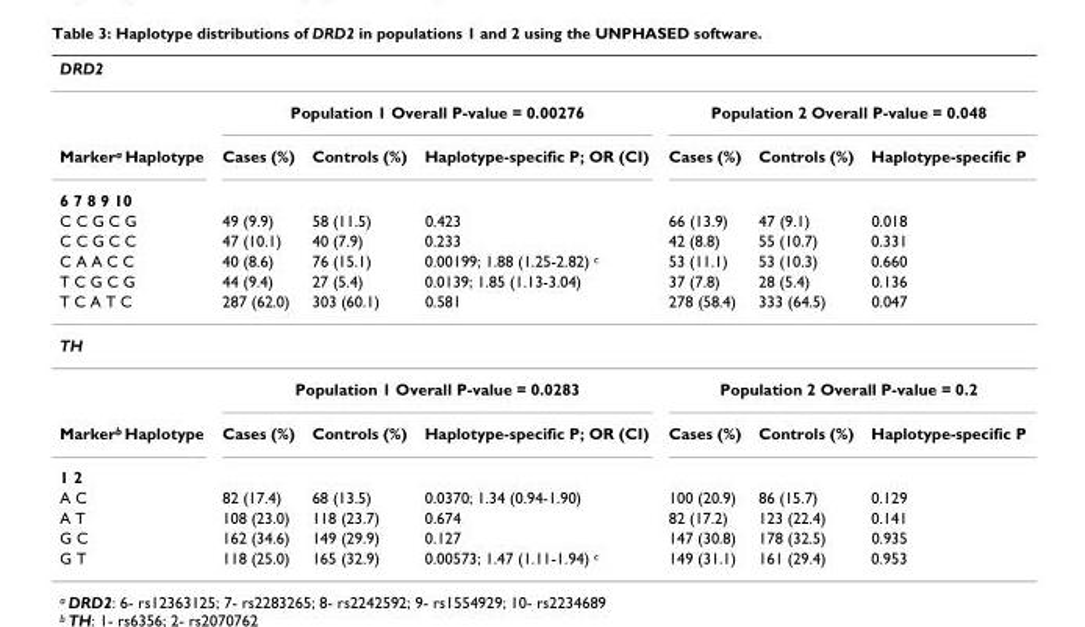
<table><thead><tr><td>DRD2</td><td></td><td></td><td></td><td></td><td></td><td></td></tr></thead><tbody><tr><td></td><td colspan="3">Population 1 Overall P-value = 0.00276</td><td colspan="3">Population 2 Overall P-value = 0.048</td></tr><tr><td>Marker<sup>a</sup> Haplotype</td><td>Cases (%)</td><td>Controls (%)</td><td>Haplotype-specific P; OR (CI)</td><td>Cases (%)</td><td>Controls (%)</td><td>Haplotype-specific P</td></tr><tr><td colspan="7">6 7 8 9 10</td></tr><tr><td>C C G C G</td><td>49 (9.9)</td><td>58 (11.5)</td><td>0.423</td><td>66 (13.9)</td><td>47 (9.1)</td><td>0.018</td></tr><tr><td>C C G C C</td><td>47 (10.1)</td><td>40 (7.9)</td><td>0.233</td><td>42 (8.8)</td><td>55 (10.7)</td><td>0.331</td></tr><tr><td>C A A C C</td><td>40 (8.6)</td><td>76 (15.1)</td><td>0.00199; 1.88 (1.25-2.82) <sup>c</sup></td><td>53 (11.1)</td><td>53 (10.3)</td><td>0.660</td></tr><tr><td>T C G C G</td><td>44 (9.4)</td><td>27 (5.4)</td><td>0.0139; 1.85 (1.13-3.04)</td><td>37 (7.8)</td><td>28 (5.4)</td><td>0.136</td></tr><tr><td>T C A T C</td><td>287 (62.0)</td><td>303 (60.1)</td><td>0.581</td><td>278 (58.4)</td><td>333 (64.5)</td><td>0.047</td></tr><tr><td colspan="7">TH</td></tr><tr><td></td><td colspan="3">Population 1 Overall P-value = 0.0283</td><td colspan="3">Population 2 Overall P-value = 0.2</td></tr><tr><td>Marker<sup>b</sup> Haplotype</td><td>Cases (%)</td><td>Controls (%)</td><td>Haplotype-specific P; OR (CI)</td><td>Cases (%)</td><td>Controls (%)</td><td>Haplotype-specific P</td></tr><tr><td colspan="7">1 2</td></tr><tr><td>A C</td><td>82 (17.4)</td><td>68 (13.5)</td><td>0.0370; 1.34 (0.94-1.90)</td><td>100 (20.9)</td><td>86 (15.7)</td><td>0.129</td></tr><tr><td>A T</td><td>108 (23.0)</td><td>118 (23.7)</td><td>0.674</td><td>82 (17.2)</td><td>123 (22.4)</td><td>0.141</td></tr><tr><td>G C</td><td>162 (34.6)</td><td>149 (29.9)</td><td>0.127</td><td>147 (30.8)</td><td>178 (32.5)</td><td>0.935</td></tr><tr><td>G T</td><td>118 (25.0)</td><td>165 (32.9)</td><td>0.00573; 1.47 (1.11-1.94) <sup>c</sup></td><td>149 (31.1)</td><td>161 (29.4)</td><td>0.953</td></tr></tbody></table>